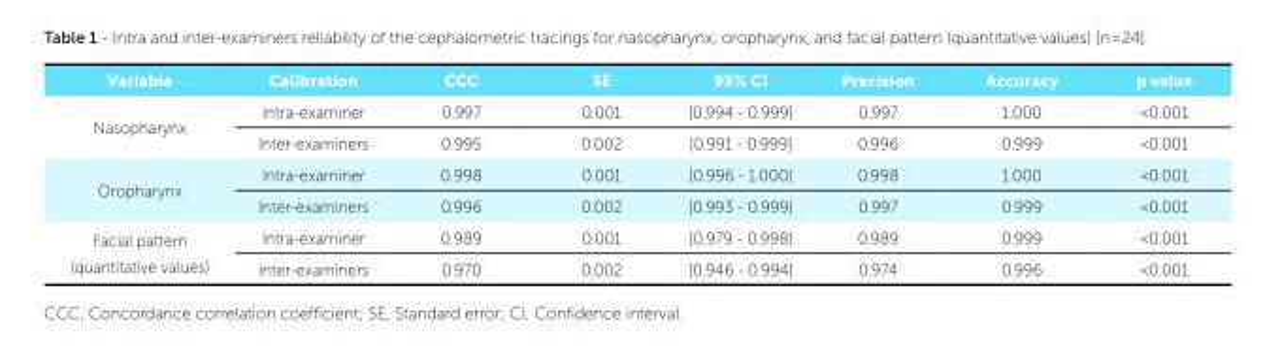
<table><tbody><tr><td>Variable</td><td>Calibration</td><td>CCC</td><td>SE</td><td>95% CI</td><td>Precision</td><td>Accuracy</td><td>p value</td></tr><tr><td rowspan="2">Nasopharynx</td><td>Intra-examiner</td><td>0.997</td><td>0.001</td><td>[0.994 - 0.999]</td><td>0.997</td><td>1.000</td><td>&lt;0.001</td></tr><tr><td>Inter-examiners</td><td>0.995</td><td>0.002</td><td>[0.991 - 0.999]</td><td>0.996</td><td>0.999</td><td>&lt;0.001</td></tr><tr><td rowspan="2">Oropharynx</td><td>Intra-examiner</td><td>0.998</td><td>0.001</td><td>[0.996 - 1.000]</td><td>0.998</td><td>1.000</td><td>&lt;0.001</td></tr><tr><td>Inter-examiners</td><td>0.996</td><td>0.002</td><td>[0.993 - 0.999]</td><td>0.997</td><td>0.999</td><td>&lt;0.001</td></tr><tr><td rowspan="2">Facial pattern (quantitative values)</td><td>Intra-examiner</td><td>0.989</td><td>0.001</td><td>[0.979 - 0.998]</td><td>0.989</td><td>0.999</td><td>&lt;0.001</td></tr><tr><td>Inter-examiners</td><td>0.970</td><td>0.002</td><td>[0.946 - 0.994]</td><td>0.974</td><td>0.996</td><td>&lt;0.001</td></tr></tbody></table>